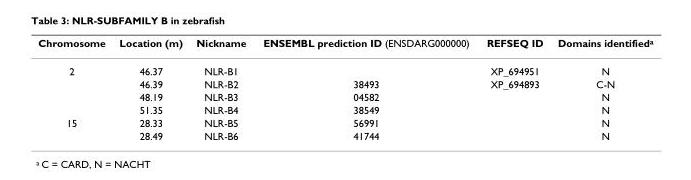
<table><thead><tr><td>Chromosome</td><td>Location (m)</td><td>Nickname</td><td>ENSEMBL prediction ID (ENSDARG000000)</td><td>REFSEQ ID</td><td>Domains identified<sup>a</sup></td></tr></thead><tbody><tr><td rowspan="4">2</td><td>46.37</td><td>NLR-B1</td><td></td><td>XP_694951</td><td>N</td></tr><tr><td>46.39</td><td>NLR-B2</td><td>38493</td><td>XP_694893</td><td>C-N</td></tr><tr><td>48.19</td><td>NLR-B3</td><td>04582</td><td></td><td>N</td></tr><tr><td>51.35</td><td>NLR-B4</td><td>38549</td><td></td><td>N</td></tr><tr><td rowspan="2">15</td><td>28.33</td><td>NLR-B5</td><td>56991</td><td></td><td>N</td></tr><tr><td>28.49</td><td>NLR-B6</td><td>41744</td><td></td><td>N</td></tr></tbody></table>